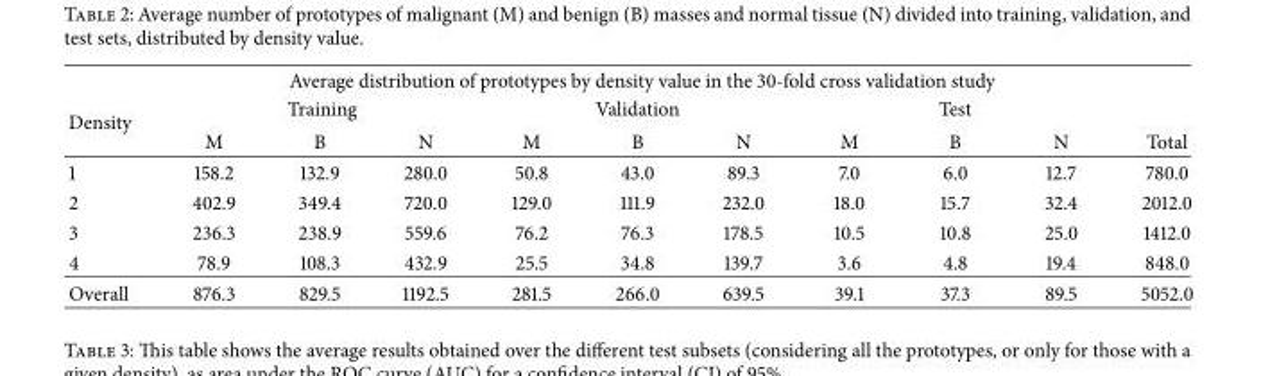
<table><thead><tr><td colspan="11">Average distribution of prototypes by density value in the 30-fold cross validation study</td></tr><tr><td rowspan="2">Density</td><td colspan="3">Training</td><td colspan="3">Validation</td><td colspan="3">Test</td><td rowspan="2">Total</td></tr><tr><td>M</td><td>B</td><td>N</td><td>M</td><td>B</td><td>N</td><td>M</td><td>B</td><td>N</td></tr></thead><tbody><tr><td>1</td><td>158.2</td><td>132.9</td><td>280.0</td><td>50.8</td><td>43.0</td><td>89.3</td><td>7.0</td><td>6.0</td><td>12.7</td><td>780.0</td></tr><tr><td>2</td><td>402.9</td><td>349.4</td><td>720.0</td><td>129.0</td><td>111.9</td><td>232.0</td><td>18.0</td><td>15.7</td><td>32.4</td><td>2012.0</td></tr><tr><td>3</td><td>236.3</td><td>238.9</td><td>559.6</td><td>76.2</td><td>76.3</td><td>178.5</td><td>10.5</td><td>10.8</td><td>25.0</td><td>1412.0</td></tr><tr><td>4</td><td>78.9</td><td>108.3</td><td>432.9</td><td>25.5</td><td>34.8</td><td>139.7</td><td>3.6</td><td>4.8</td><td>19.4</td><td>848.0</td></tr><tr><td>Overall</td><td>876.3</td><td>829.5</td><td>1192.5</td><td>281.5</td><td>266.0</td><td>639.5</td><td>39.1</td><td>37.3</td><td>89.5</td><td>5052.0</td></tr></tbody></table>